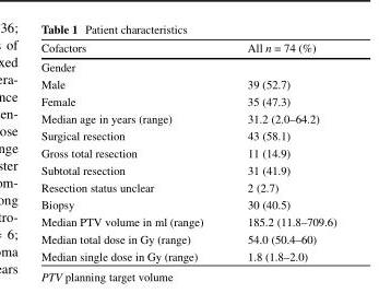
<table><thead><tr><td>Cofactors</td><td>All n = 74 (%)</td></tr></thead><tbody><tr><td colspan="2">Gender</td></tr><tr><td>Male</td><td>39 (52.7)</td></tr><tr><td>Female</td><td>35 (47.3)</td></tr><tr><td>Median age in years (range)</td><td>31.2 (2.0–64.2)</td></tr><tr><td>Surgical resection</td><td>43 (58.1)</td></tr><tr><td>Gross total resection</td><td>11 (14.9)</td></tr><tr><td>Subtotal resection</td><td>31 (41.9)</td></tr><tr><td>Resection status unclear</td><td>2 (2.7)</td></tr><tr><td>Biopsy</td><td>30 (40.5)</td></tr><tr><td>Median PTV volume in ml (range)</td><td>185.2 (11.8–709.6)</td></tr><tr><td>Median total dose in Gy (range)</td><td>54.0 (50.4–60)</td></tr><tr><td>Median single dose in Gy (range)</td><td>1.8 (1.8–2.0)</td></tr></tbody></table>